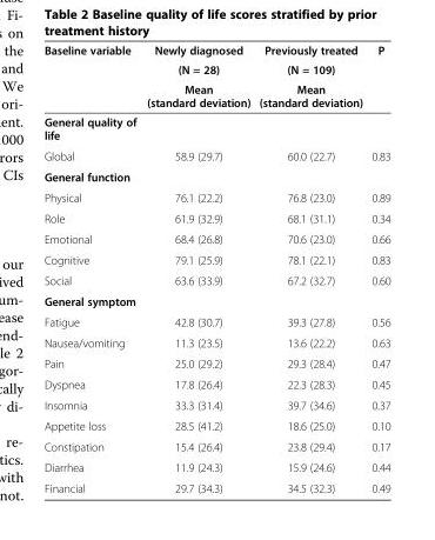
<table><thead><tr><td rowspan="3">Baseline variable</td><td rowspan="3">Newly diagnosed (N = 28) Mean (standard deviation)</td><td rowspan="3">Previously treated (N = 109) Mean (standard deviation)</td><td rowspan="3">P</td></tr><tr></tr><tr></tr></thead><tbody><tr><td colspan="4">General quality of life</td></tr><tr><td>Global</td><td>58.9 (29.7)</td><td>60.0 (22.7)</td><td>0.83</td></tr><tr><td colspan="4">General function</td></tr><tr><td>Physical</td><td>76.1 (22.2)</td><td>76.8 (23.0)</td><td>0.89</td></tr><tr><td>Role</td><td>61.9 (32.9)</td><td>68.1 (31.1)</td><td>0.34</td></tr><tr><td>Emotional</td><td>68.4 (26.8)</td><td>70.6 (23.0)</td><td>0.66</td></tr><tr><td>Cognitive</td><td>79.1 (25.9)</td><td>78.1 (22.1)</td><td>0.83</td></tr><tr><td>Social</td><td>63.6 (33.9)</td><td>67.2 (32.7)</td><td>0.60</td></tr><tr><td colspan="4">General symptom</td></tr><tr><td>Fatigue</td><td>42.8 (30.7)</td><td>39.3 (27.8)</td><td>0.56</td></tr><tr><td>Nausea/vomiting</td><td>11.3 (23.5)</td><td>13.6 (22.2)</td><td>0.63</td></tr><tr><td>Pain</td><td>25.0 (29.2)</td><td>29.3 (28.4)</td><td>0.47</td></tr><tr><td>Dyspnea</td><td>17.8 (26.4)</td><td>22.3 (28.3)</td><td>0.45</td></tr><tr><td>Insomnia</td><td>33.3 (31.4)</td><td>39.7 (34.6)</td><td>0.37</td></tr><tr><td>Appetite loss</td><td>28.5 (41.2)</td><td>18.6 (25.0)</td><td>0.10</td></tr><tr><td>Constipation</td><td>15.4 (26.4)</td><td>23.8 (29.4)</td><td>0.17</td></tr><tr><td>Diarrhea</td><td>11.9 (24.3)</td><td>15.9 (24.6)</td><td>0.44</td></tr><tr><td>Financial</td><td>29.7 (34.3)</td><td>34.5 (32.3)</td><td>0.49</td></tr></tbody></table>